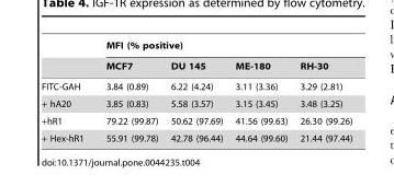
<table><thead><tr><td rowspan="2"></td><td colspan="4">MFI (% positive)</td></tr><tr><td>MCF7</td><td>DU 145</td><td>ME-180</td><td>RH-30</td></tr></thead><tbody><tr><td>FITC-GAH</td><td>3.84 (0.89)</td><td>6.22 (4.24)</td><td>3.11 (3.36)</td><td>3.29 (2.81)</td></tr><tr><td>+ hA20</td><td>3.85 (0.83)</td><td>5.58 (3.57)</td><td>3.15 (3.45)</td><td>3.48 (3.25)</td></tr><tr><td>+hR1</td><td>79.22 (99.87)</td><td>50.62 (97.69)</td><td>41.56 (99.63)</td><td>26.30 (99.26)</td></tr><tr><td>+ Hex-hR1</td><td>55.91 (99.78)</td><td>42.78 (96.44)</td><td>44.64 (99.60)</td><td>21.44 (97.44)</td></tr></tbody></table>